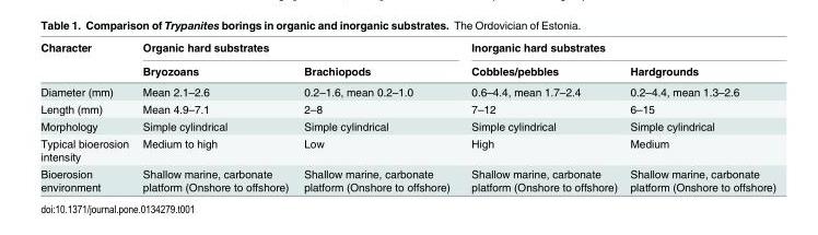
<table><thead><tr><td rowspan="2">Character</td><td colspan="2">Organic hard substrates</td><td colspan="2">Inorganic hard substrates</td></tr><tr><td>Bryozoans</td><td>Brachiopods</td><td>Cobbles/pebbles</td><td>Hardgrounds</td></tr></thead><tbody><tr><td>Diameter (mm)</td><td>Mean 2.1–2.6</td><td>0.2–1.6, mean 0.2–1.0</td><td>0.6–4.4, mean 1.7–2.4</td><td>0.2–4.4, mean 1.3–2.6</td></tr><tr><td>Length (mm)</td><td>Mean 4.9–7.1</td><td>2–8</td><td>7–12</td><td>6–15</td></tr><tr><td>Morphology</td><td>Simple cylindrical</td><td>Simple cylindrical</td><td>Simple cylindrical</td><td>Simple cylindrical</td></tr><tr><td>Typical bioerosion intensity</td><td>Medium to high</td><td>Low</td><td>High</td><td>Medium</td></tr><tr><td>Bioerosion environment</td><td>Shallow marine, carbonate platform (Onshore to offshore)</td><td>Shallow marine, carbonate platform (Onshore to offshore)</td><td>Shallow marine, carbonate platform (Onshore to offshore)</td><td>Shallow marine, carbonate platform (Onshore to offshore)</td></tr></tbody></table>